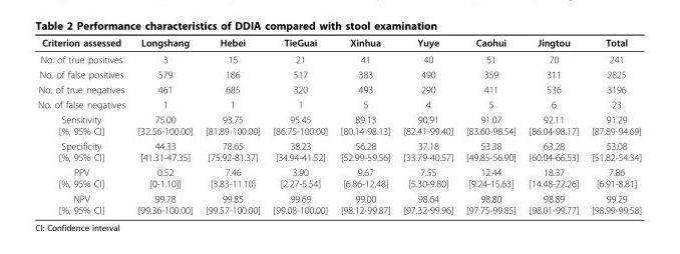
<table><thead><tr><td>Criterion assessed</td><td>Longshang</td><td>Hebei</td><td>TieGuai</td><td>Xinhua</td><td>Yuye</td><td>Caohui</td><td>Jingtou</td><td>Total</td></tr></thead><tbody><tr><td>No. of true positives</td><td>3</td><td>15</td><td>21</td><td>41</td><td>40</td><td>51</td><td>70</td><td>241</td></tr><tr><td>No. of false positives</td><td>579</td><td>186</td><td>517</td><td>383</td><td>490</td><td>359</td><td>311</td><td>2825</td></tr><tr><td>No. of true negatives</td><td>461</td><td>685</td><td>320</td><td>493</td><td>290</td><td>411</td><td>536</td><td>3196</td></tr><tr><td>No. of false negatives</td><td>1</td><td>1</td><td>1</td><td>5</td><td>4</td><td>5</td><td>6</td><td>23</td></tr><tr><td>Sensitivity [%, 95% CI]</td><td>75.00 [32.56-100.00]</td><td>93.75 [81.89-100.00]</td><td>95.45 [86.75-100.00]</td><td>89.13 [80.14-98.13]</td><td>90.91 [82.41-99.40]</td><td>91.07 [83.60-98.54]</td><td>92.11 [86.04-98.17]</td><td>91.29 [87.89-94.69]</td></tr><tr><td>Specificity [%, 95% CI]</td><td>44.33 [41.31-47.35]</td><td>78.65 [75.92-81.37]</td><td>38.23 [34.94-41.52]</td><td>56.28 [52.99-59.56]</td><td>37.18 [33.79-40.57]</td><td>53.38 [49.85-56.90]</td><td>63.28 [60.04-66.53]</td><td>53.08 [51.82-54.34]</td></tr><tr><td>PPV [%, 95% CI]</td><td>0.52 [0-1.10]]</td><td>7.46 [3.83-11.10]</td><td>3.90 [2.27-5.54]</td><td>9.67 [6.86-12.48]</td><td>7.55 [5.30-9.80]</td><td>12.44 [9.24-15.63]</td><td>18.37 [14.48-22.26]</td><td>7.86 [6.91-8.81]</td></tr><tr><td>NPV [%, 95% CI]</td><td>99.78 [99.36-100.00]</td><td>99.85 [99.57-100.00]</td><td>99.69 [99.08-100.00]</td><td>99.00 [98.12-99.87]</td><td>98.64 [97.32-99.96]</td><td>98.80 [97.75-99.85]</td><td>98.89 [98.01-99.77]</td><td>99.29 [98.99-99.58]</td></tr></tbody></table>